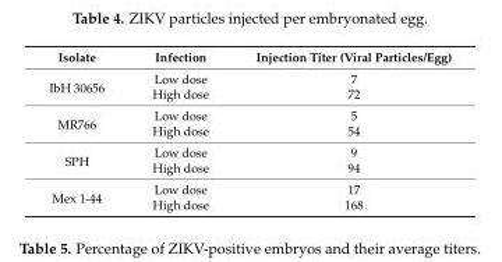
<table><thead><tr><td>Isolate</td><td>Infection</td><td>Injection Titer (Viral Particles/Egg)</td></tr></thead><tbody><tr><td rowspan="2">IbH 30656</td><td>Low dose</td><td>7</td></tr><tr><td>High dose</td><td>72</td></tr><tr><td rowspan="2">MR766</td><td>Low dose</td><td>5</td></tr><tr><td>High dose</td><td>54</td></tr><tr><td rowspan="2">SPH</td><td>Low dose</td><td>9</td></tr><tr><td>High dose</td><td>94</td></tr><tr><td rowspan="2">Mex 1-44</td><td>Low dose</td><td>17</td></tr><tr><td>High dose</td><td>168</td></tr></tbody></table>